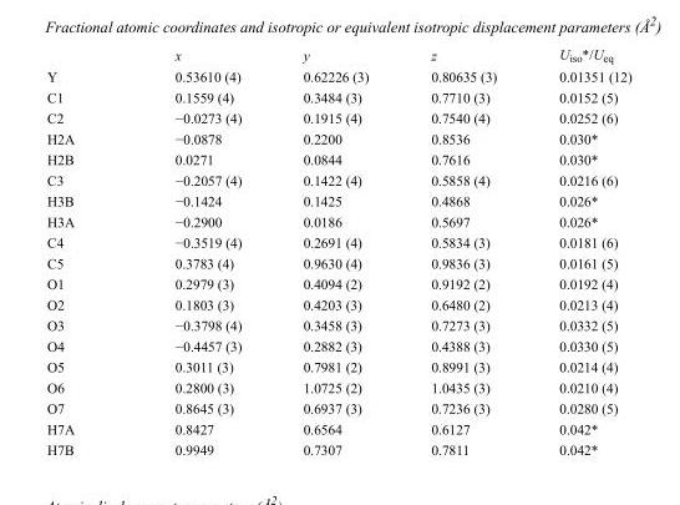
<table><thead><tr><td></td><td>x</td><td>y</td><td>z</td><td>U<sub>iso</sub>*/U<sub>eq</sub></td></tr></thead><tbody><tr><td>Y</td><td>0.53610 (4)</td><td>0.62226 (3)</td><td>0.80635 (3)</td><td>0.01351 (12)</td></tr><tr><td>C1</td><td>0.1559 (4)</td><td>0.3484 (3)</td><td>0.7710 (3)</td><td>0.0152 (5)</td></tr><tr><td>C2</td><td>−0.0273 (4)</td><td>0.1915 (4)</td><td>0.7540 (4)</td><td>0.0252 (6)</td></tr><tr><td>H2A</td><td>−0.0878</td><td>0.2200</td><td>0.8536</td><td>0.030*</td></tr><tr><td>H2B</td><td>0.0271</td><td>0.0844</td><td>0.7616</td><td>0.030*</td></tr><tr><td>C3</td><td>−0.2057 (4)</td><td>0.1422 (4)</td><td>0.5858 (4)</td><td>0.0216 (6)</td></tr><tr><td>H3B</td><td>−0.1424</td><td>0.1425</td><td>0.4868</td><td>0.026*</td></tr><tr><td>H3A</td><td>−0.2900</td><td>0.0186</td><td>0.5697</td><td>0.026*</td></tr><tr><td>C4</td><td>−0.3519 (4)</td><td>0.2691 (4)</td><td>0.5834 (3)</td><td>0.0181 (6)</td></tr><tr><td>C5</td><td>0.3783 (4)</td><td>0.9630 (4)</td><td>0.9836 (3)</td><td>0.0161 (5)</td></tr><tr><td>O1</td><td>0.2979 (3)</td><td>0.4094 (2)</td><td>0.9192 (2)</td><td>0.0192 (4)</td></tr><tr><td>O2</td><td>0.1803 (3)</td><td>0.4203 (3)</td><td>0.6480 (2)</td><td>0.0213 (4)</td></tr><tr><td>O3</td><td>−0.3798 (4)</td><td>0.3458 (3)</td><td>0.7273 (3)</td><td>0.0332 (5)</td></tr><tr><td>O4</td><td>−0.4457 (3)</td><td>0.2882 (3)</td><td>0.4388 (3)</td><td>0.0330 (5)</td></tr><tr><td>O5</td><td>0.3011 (3)</td><td>0.7981 (2)</td><td>0.8991 (3)</td><td>0.0214 (4)</td></tr><tr><td>O6</td><td>0.2800 (3)</td><td>1.0725 (2)</td><td>1.0435 (3)</td><td>0.0210 (4)</td></tr><tr><td>O7</td><td>0.8645 (3)</td><td>0.6937 (3)</td><td>0.7236 (3)</td><td>0.0280 (5)</td></tr><tr><td>H7A</td><td>0.8427</td><td>0.6564</td><td>0.6127</td><td>0.042*</td></tr><tr><td>H7B</td><td>0.9949</td><td>0.7307</td><td>0.7811</td><td>0.042*</td></tr></tbody></table>